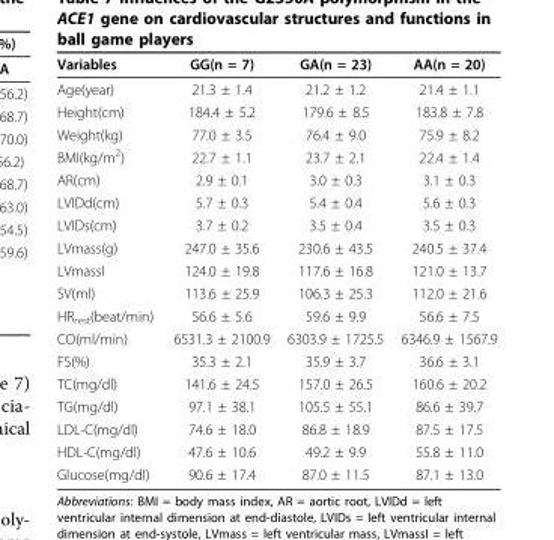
<table><thead><tr><td>Variables</td><td>GG(n = 7)</td><td>GA(n = 23)</td><td>AA(n = 20)</td></tr></thead><tbody><tr><td>Age(year)</td><td>21.3 ± 1.4</td><td>21.2 ± 1.2</td><td>21.4 ± 1.1</td></tr><tr><td>Height(cm)</td><td>184.4 ± 5.2</td><td>179.6 ± 8.5</td><td>183.8 ± 7.8</td></tr><tr><td>Weight(kg)</td><td>77.0 ± 3.5</td><td>76.4 ± 9.0</td><td>75.9 ± 8.2</td></tr><tr><td>BMI(kg/m<sup>2</sup>)</td><td>22.7 ± 1.1</td><td>23.7 ± 2.1</td><td>22.4 ± 1.4</td></tr><tr><td>AR(cm)</td><td>2.9 ± 0.1</td><td>3.0 ± 0.3</td><td>3.1 ± 0.3</td></tr><tr><td>LVIDd(cm)</td><td>5.7 ± 0.3</td><td>5.4 ± 0.4</td><td>5.6 ± 0.3</td></tr><tr><td>LVIDs(cm)</td><td>3.7 ± 0.2</td><td>3.5 ± 0.4</td><td>3.5 ± 0.3</td></tr><tr><td>LVmass(g)</td><td>247.0 ± 35.6</td><td>230.6 ± 43.5</td><td>240.5 ± 37.4</td></tr><tr><td>LVmassI</td><td>124.0 ± 19.8</td><td>117.6 ± 16.8</td><td>121.0 ± 13.7</td></tr><tr><td>SV(ml)</td><td>113.6 ± 25.9</td><td>106.3 ± 25.3</td><td>112.0 ± 21.6</td></tr><tr><td>HR<sub>rest</sub>(beat/min)</td><td>56.6 ± 5.6</td><td>59.6 ± 9.9</td><td>56.6 ± 7.5</td></tr><tr><td>CO(ml/min)</td><td>6531.3 ± 2100.9</td><td>6303.9 ± 1725.5</td><td>6346.9 ± 1567.9</td></tr><tr><td>FS(%)</td><td>35.3 ± 2.1</td><td>35.9 ± 3.7</td><td>36.6 ± 3.1</td></tr><tr><td>TC(mg/dl)</td><td>141.6 ± 24.5</td><td>157.0 ± 26.5</td><td>160.6 ± 20.2</td></tr><tr><td>TG(mg/dl)</td><td>97.1 ± 38.1</td><td>105.5 ± 55.1</td><td>86.6 ± 39.7</td></tr><tr><td>LDL-C(mg/dl)</td><td>74.6 ± 18.0</td><td>86.8 ± 18.9</td><td>87.5 ± 17.5</td></tr><tr><td>HDL-C(mg/dl)</td><td>47.6 ± 10.6</td><td>49.2 ± 9.9</td><td>55.8 ± 11.0</td></tr><tr><td>Glucose(mg/dl)</td><td>90.6 ± 17.4</td><td>87.0 ± 11.5</td><td>87.1 ± 13.0</td></tr></tbody></table>